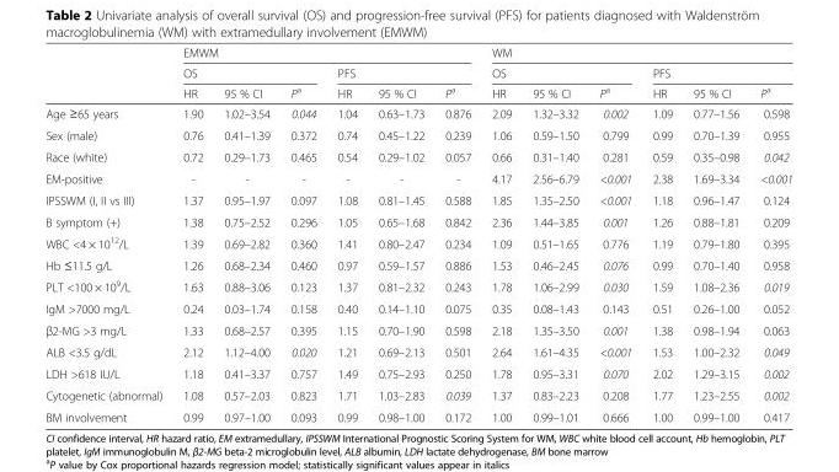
<table><thead><tr><td rowspan="3"></td><td colspan="6">EMWM</td><td colspan="6">WM</td></tr><tr><td colspan="3">OS</td><td colspan="3">PFS</td><td colspan="3">OS</td><td colspan="3">PFS</td></tr><tr><td>HR</td><td>95 % CI</td><td>P<sup>a</sup></td><td>HR</td><td>95 % CI</td><td>P<sup>a</sup></td><td>HR</td><td>95 % CI</td><td>P<sup>a</sup></td><td>HR</td><td>95 % CI</td><td>P<sup>a</sup></td></tr></thead><tbody><tr><td>Age ≥65 years</td><td>1.90</td><td>1.02–3.54</td><td>0.044</td><td>1.04</td><td>0.63–1.73</td><td>0.876</td><td>2.09</td><td>1.32–3.32</td><td>0.002</td><td>1.09</td><td>0.77–1.56</td><td>0.598</td></tr><tr><td>Sex (male)</td><td>0.76</td><td>0.41–1.39</td><td>0.372</td><td>0.74</td><td>0.45–1.22</td><td>0.239</td><td>1.06</td><td>0.59–1.50</td><td>0.799</td><td>0.99</td><td>0.70–1.39</td><td>0.955</td></tr><tr><td>Race (white)</td><td>0.72</td><td>0.29–1.73</td><td>0.465</td><td>0.54</td><td>0.29–1.02</td><td>0.057</td><td>0.66</td><td>0.31–1.40</td><td>0.281</td><td>0.59</td><td>0.35–0.98</td><td>0.042</td></tr><tr><td>EM-positive</td><td>-</td><td>-</td><td>-</td><td>-</td><td>-</td><td>-</td><td>4.17</td><td>2.56–6.79</td><td>&lt;0.001</td><td>2.38</td><td>1.69–3.34</td><td>&lt;0.001</td></tr><tr><td>IPSSWM (I, II vs III)</td><td>1.37</td><td>0.95–1.97</td><td>0.097</td><td>1.08</td><td>0.81–1.45</td><td>0.588</td><td>1.85</td><td>1.35–2.50</td><td>&lt;0.001</td><td>1.18</td><td>0.96–1.47</td><td>0.124</td></tr><tr><td>B symptom (+)</td><td>1.38</td><td>0.75–2.52</td><td>0.296</td><td>1.05</td><td>0.65–1.68</td><td>0.842</td><td>2.36</td><td>1.44–3.85</td><td>0.001</td><td>1.26</td><td>0.88–1.81</td><td>0.209</td></tr><tr><td>WBC &lt;4 × 10<sup>12</sup>/L</td><td>1.39</td><td>0.69–2.82</td><td>0.360</td><td>1.41</td><td>0.80–2.47</td><td>0.234</td><td>1.09</td><td>0.51–1.65</td><td>0.776</td><td>1.19</td><td>0.79–1.80</td><td>0.395</td></tr><tr><td>Hb ≤11.5 g/L</td><td>1.26</td><td>0.68–2.34</td><td>0.460</td><td>0.97</td><td>0.59–1.57</td><td>0.886</td><td>1.53</td><td>0.46–2.45</td><td>0.076</td><td>0.99</td><td>0.70–1.40</td><td>0.958</td></tr><tr><td>PLT &lt;100 × 10<sup>9</sup>/L</td><td>1.63</td><td>0.88–3.06</td><td>0.123</td><td>1.37</td><td>0.81–2.32</td><td>0.243</td><td>1.78</td><td>1.06–2.99</td><td>0.030</td><td>1.59</td><td>1.08–2.36</td><td>0.019</td></tr><tr><td>IgM &gt;7000 mg/L</td><td>0.24</td><td>0.03–1.74</td><td>0.158</td><td>0.40</td><td>0.14–1.10</td><td>0.075</td><td>0.35</td><td>0.08–1.43</td><td>0.143</td><td>0.51</td><td>0.26–1.00</td><td>0.052</td></tr><tr><td>β2-MG &gt;3 mg/L</td><td>1.33</td><td>0.68–2.57</td><td>0.395</td><td>1.15</td><td>0.70–1.90</td><td>0.598</td><td>2.18</td><td>1.35–3.50</td><td>0.001</td><td>1.38</td><td>0.98–1.94</td><td>0.063</td></tr><tr><td>ALB &lt;3.5 g/dL</td><td>2.12</td><td>1.12–4.00</td><td>0.020</td><td>1.21</td><td>0.69–2.13</td><td>0.501</td><td>2.64</td><td>1.61–4.35</td><td>&lt;0.001</td><td>1.53</td><td>1.00–2.32</td><td>0.049</td></tr><tr><td>LDH &gt;618 IU/L</td><td>1.18</td><td>0.41–3.37</td><td>0.757</td><td>1.49</td><td>0.75–2.93</td><td>0.250</td><td>1.78</td><td>0.95–3.31</td><td>0.070</td><td>2.02</td><td>1.29–3.15</td><td>0.002</td></tr><tr><td>Cytogenetic (abnormal)</td><td>1.08</td><td>0.57–2.03</td><td>0.823</td><td>1.71</td><td>1.03–2.83</td><td>0.039</td><td>1.37</td><td>0.83–2.23</td><td>0.208</td><td>1.77</td><td>1.23–2.55</td><td>0.002</td></tr><tr><td>BM involvement</td><td>0.99</td><td>0.97–1.00</td><td>0.093</td><td>0.99</td><td>0.98–1.00</td><td>0.172</td><td>1.00</td><td>0.99–1.01</td><td>0.666</td><td>1.00</td><td>0.99–1.00</td><td>0.417</td></tr></tbody></table>